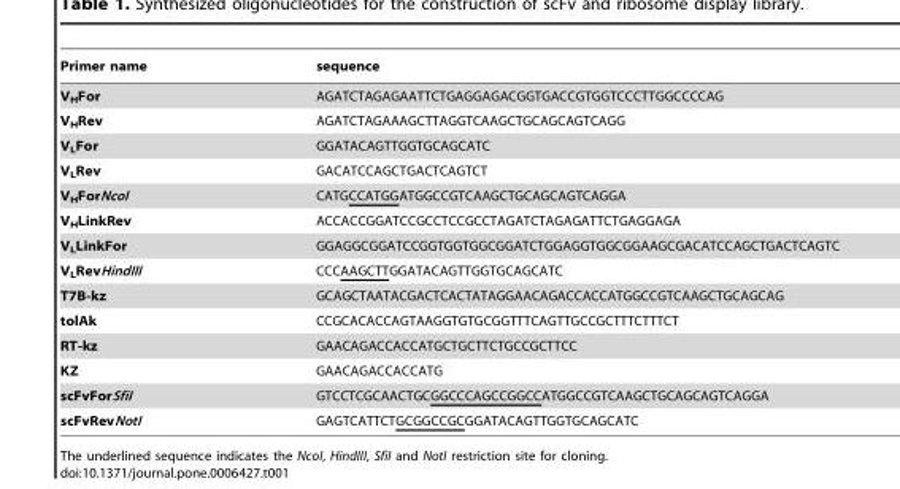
<table><thead><tr><td>Primer name</td><td>sequence</td></tr></thead><tbody><tr><td>V<sub>H</sub>For</td><td>AGATCTAGAGAATTCTGAGGAGACGGTGACCGTGGTCCCTTGGCCCCAG</td></tr><tr><td>V<sub>H</sub>Rev</td><td>AGATCTAGAAAGCTTAGGTCAAGCTGCAGCAGTCAGG</td></tr><tr><td>V<sub>L</sub>For</td><td>GGATACAGTTGGTGCAGCATC</td></tr><tr><td>V<sub>L</sub>Rev</td><td>GACATCCAGCTGACTCAGTCT</td></tr><tr><td>V<sub>H</sub>ForNcoI</td><td>CATGCCATGGATGGCCGTCAAGCTGCAGCAGTCAGGA</td></tr><tr><td>V<sub>H</sub>LinkRev</td><td>ACCACCGGATCCGCCTCCGCCTAGATCTAGAGATTCTGAGGAGA</td></tr><tr><td>V<sub>L</sub>LinkFor</td><td>GGAGGCGGATCCGGTGGTGGCGGATCTGGAGGTGGCGGAAGCGACATCCAGCTGACTCAGTC</td></tr><tr><td>V<sub>L</sub>RevHindIII</td><td>CCCAAGCTTGGATACAGTTGGTGCAGCATC</td></tr><tr><td>T7B-kz</td><td>GCAGCTAATACGACTCACTATAGGAACAGACCACCATGGCCGTCAAGCTGCAGCAG</td></tr><tr><td>tolAk</td><td>CCGCACACCAGTAAGGTGTGCGGTTTCAGTTGCCGCTTTCTTTCT</td></tr><tr><td>RT-kz</td><td>GAACAGACCACCATGCTGCTTCTGCCGCTTCC</td></tr><tr><td>KZ</td><td>GAACAGACCACCATG</td></tr><tr><td>scFvForSfiI</td><td>GTCCTCGCAACTGCGGCCCAGCCGGCCATGGCCGTCAAGCTGCAGCAGTCAGGA</td></tr><tr><td>scFvRevNotI</td><td>GAGTCATTCTGCGGCCGCGGATACAGTTGGTGCAGCATC</td></tr></tbody></table>